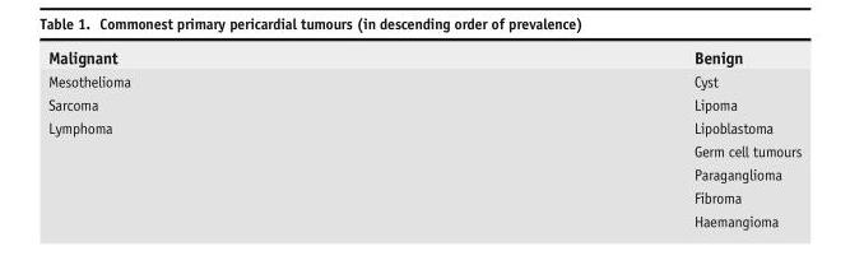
<table><thead><tr><td>Malignant</td><td>Benign</td></tr></thead><tbody><tr><td>Mesothelioma</td><td>Cyst</td></tr><tr><td>Sarcoma</td><td>Lipoma</td></tr><tr><td rowspan="5">Lymphoma</td><td>Lipoblastoma</td></tr><tr><td>Germ cell tumours</td></tr><tr><td>Paraganglioma</td></tr><tr><td>Fibroma</td></tr><tr><td>Haemangioma</td></tr></tbody></table>